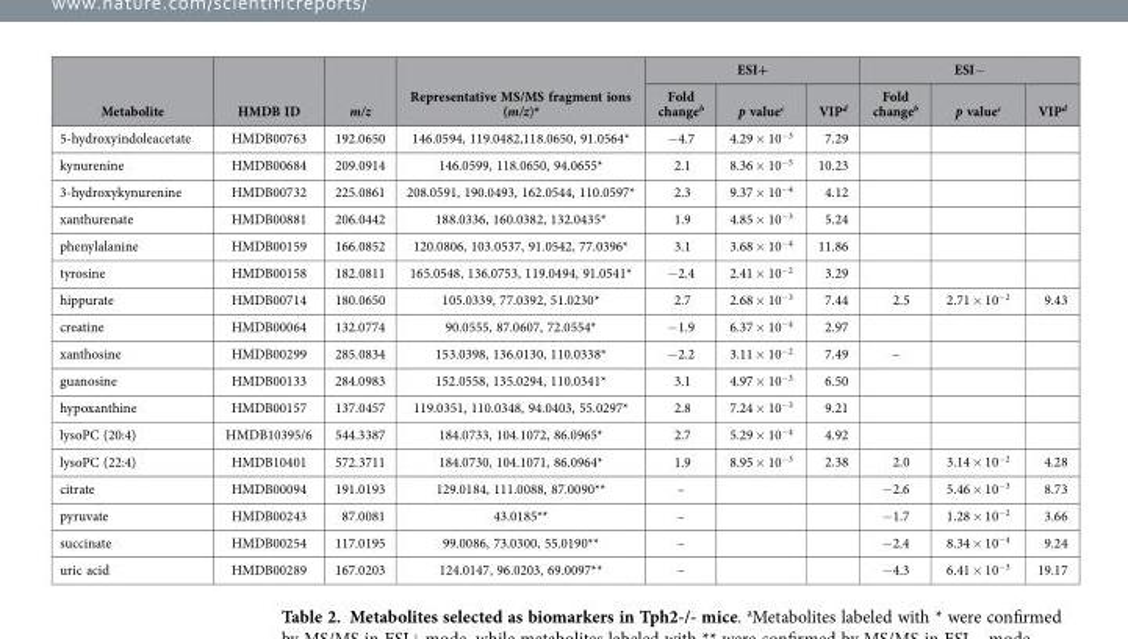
<table><thead><tr><td rowspan="2">Metabolite</td><td rowspan="2">HMDB ID</td><td rowspan="2">m/z</td><td rowspan="2">Representative MS/MS fragment ions (m/z)<sup>a</sup></td><td colspan="3">ESI+</td><td colspan="3">ESI−</td></tr><tr><td>Fold change<sup>b</sup></td><td>p value<sup>c</sup></td><td>VIP<sup>d</sup></td><td>Fold change<sup>b</sup></td><td>p value<sup>c</sup></td><td>VIP<sup>d</sup></td></tr></thead><tbody><tr><td>5-hydroxyindoleacetate</td><td>HMDB00763</td><td>192.0650</td><td>146.0594, 119.0482,118.0650, 91.0564*</td><td>−4.7</td><td>4.29 × 10<sup>−3</sup></td><td>7.29</td><td></td><td></td><td></td></tr><tr><td>kynurenine</td><td>HMDB00684</td><td>209.0914</td><td>146.0599, 118.0650, 94.0655*</td><td>2.1</td><td>8.36 × 10<sup>−5</sup></td><td>10.23</td><td></td><td></td><td></td></tr><tr><td>3-hydroxykynurenine</td><td>HMDB00732</td><td>225.0861</td><td>208.0591, 190.0493, 162.0544, 110.0597*</td><td>2.3</td><td>9.37 × 10<sup>−4</sup></td><td>4.12</td><td></td><td></td><td></td></tr><tr><td>xanthurenate</td><td>HMDB00881</td><td>206.0442</td><td>188.0336, 160.0382, 132.0435*</td><td>1.9</td><td>4.85 × 10<sup>−3</sup></td><td>5.24</td><td></td><td></td><td></td></tr><tr><td>phenylalanine</td><td>HMDB00159</td><td>166.0852</td><td>120.0806, 103.0537, 91.0542, 77.0396*</td><td>3.1</td><td>3.68 × 10<sup>−4</sup></td><td>11.86</td><td></td><td></td><td></td></tr><tr><td>tyrosine</td><td>HMDB00158</td><td>182.0811</td><td>165.0548, 136.0753, 119.0494, 91.0541*</td><td>−2.4</td><td>2.41 × 10<sup>−2</sup></td><td>3.29</td><td></td><td></td><td></td></tr><tr><td>hippurate</td><td>HMDB00714</td><td>180.0650</td><td>105.0339, 77.0392, 51.0230*</td><td>2.7</td><td>2.68 × 10<sup>−3</sup></td><td>7.44</td><td>2.5</td><td>2.71 × 10<sup>−2</sup></td><td>9.43</td></tr><tr><td>creatine</td><td>HMDB00064</td><td>132.0774</td><td>90.0555, 87.0607, 72.0554*</td><td>−1.9</td><td>6.37 × 10<sup>−4</sup></td><td>2.97</td><td></td><td></td><td></td></tr><tr><td>xanthosine</td><td>HMDB00299</td><td>285.0834</td><td>153.0398, 136.0130, 110.0338*</td><td>−2.2</td><td>3.11 × 10<sup>−2</sup></td><td>7.49</td><td>–</td><td></td><td></td></tr><tr><td>guanosine</td><td>HMDB00133</td><td>284.0983</td><td>152.0558, 135.0294, 110.0341*</td><td>3.1</td><td>4.97 × 10<sup>−3</sup></td><td>6.50</td><td></td><td></td><td></td></tr><tr><td>hypoxanthine</td><td>HMDB00157</td><td>137.0457</td><td>119.0351, 110.0348, 94.0403, 55.0297*</td><td>2.8</td><td>7.24 × 10<sup>−3</sup></td><td>9.21</td><td></td><td></td><td></td></tr><tr><td>lysoPC (20:4)</td><td>HMDB10395/6</td><td>544.3387</td><td>184.0733, 104.1072, 86.0965*</td><td>2.7</td><td>5.29 × 10<sup>−4</sup></td><td>4.92</td><td></td><td></td><td></td></tr><tr><td>lysoPC (22:4)</td><td>HMDB10401</td><td>572.3711</td><td>184.0730, 104.1071, 86.0964*</td><td>1.9</td><td>8.95 × 10<sup>−3</sup></td><td>2.38</td><td>2.0</td><td>3.14 × 10<sup>−2</sup></td><td>4.28</td></tr><tr><td>citrate</td><td>HMDB00094</td><td>191.0193</td><td>129.0184, 111.0088, 87.0090**</td><td>–</td><td></td><td></td><td>−2.6</td><td>5.46 × 10<sup>−3</sup></td><td>8.73</td></tr><tr><td>pyruvate</td><td>HMDB00243</td><td>87.0081</td><td>43.0185**</td><td>–</td><td></td><td></td><td>−1.7</td><td>1.28 × 10<sup>−2</sup></td><td>3.66</td></tr><tr><td>succinate</td><td>HMDB00254</td><td>117.0195</td><td>99.0086, 73.0300, 55.0190**</td><td>–</td><td></td><td></td><td>−2.4</td><td>8.34 × 10<sup>−4</sup></td><td>9.24</td></tr><tr><td>uric acid</td><td>HMDB00289</td><td>167.0203</td><td>124.0147, 96.0203, 69.0097**</td><td>–</td><td></td><td></td><td>−4.3</td><td>6.41 × 10<sup>−3</sup></td><td>19.17</td></tr></tbody></table>